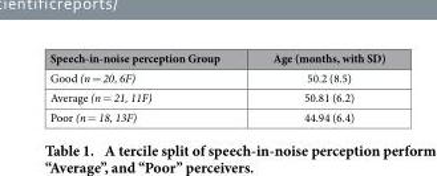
<table><thead><tr><td>Speech-in-noise perception Group</td><td>Age (months, with SD)</td></tr></thead><tbody><tr><td>Good (n = 20, 6F)</td><td>50.2 (8.5)</td></tr><tr><td>Average (n = 21, 11F)</td><td>50.81 (6.2)</td></tr><tr><td>Poor (n = 18, 13F)</td><td>44.94 (6.4)</td></tr></tbody></table>